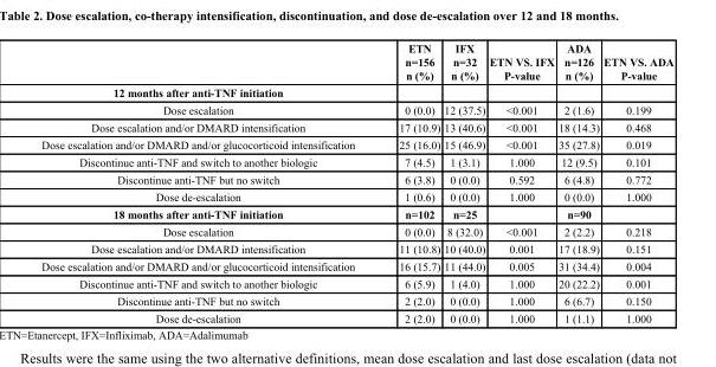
<table><thead><tr><td></td><td>ETN n=156 n (%)</td><td>IFX n=32 n (%)</td><td>ETN VS. IFX P-value</td><td>ADA n=126 n (%)</td><td>ETN VS. ADA P-value</td></tr></thead><tbody><tr><td colspan="6">12 months after anti-TNF initiation</td></tr><tr><td>Dose escalation</td><td>0 (0.0)</td><td>12 (37.5)</td><td>&lt;0.001</td><td>2 (1.6)</td><td>0.199</td></tr><tr><td>Dose escalation and/or DMARD intensification</td><td>17 (10.9)</td><td>13 (40.6)</td><td>&lt;0.001</td><td>18 (14.3)</td><td>0.468</td></tr><tr><td>Dose escalation and/or DMARD and/or glucocorticoid intensification</td><td>25 (16.0)</td><td>15 (46.9)</td><td>&lt;0.001</td><td>35 (27.8)</td><td>0.019</td></tr><tr><td>Discontinue anti-TNF and switch to another biologic</td><td>7 (4.5)</td><td>1 (3.1)</td><td>1.000</td><td>12 (9.5)</td><td>0.101</td></tr><tr><td>Discontinue anti-TNF but no switch</td><td>6 (3.8)</td><td>0 (0.0)</td><td>0.592</td><td>6 (4.8)</td><td>0.772</td></tr><tr><td>Dose de-escalation</td><td>1 (0.6)</td><td>0 (0.0)</td><td>1.000</td><td>0 (0.0)</td><td>1.000</td></tr><tr><td>18 months after anti-TNF initiation</td><td>n=102</td><td>n=25</td><td></td><td>n=90</td><td></td></tr><tr><td>Dose escalation</td><td>0 (0.0)</td><td>8 (32.0)</td><td>&lt;0.001</td><td>2 (2.2)</td><td>0.218</td></tr><tr><td>Dose escalation and/or DMARD intensification</td><td>11 (10.8)</td><td>10 (40.0)</td><td>0.001</td><td>17 (18.9)</td><td>0.151</td></tr><tr><td>Dose escalation and/or DMARD and/or glucocorticoid intensification</td><td>16 (15.7)</td><td>11 (44.0)</td><td>0.005</td><td>31 (34.4)</td><td>0.004</td></tr><tr><td>Discontinue anti-TNF and switch to another biologic</td><td>6 (5.9)</td><td>1 (4.0)</td><td>1.000</td><td>20 (22.2)</td><td>0.001</td></tr><tr><td>Discontinue anti-TNF but no switch</td><td>2 (2.0)</td><td>0 (0.0)</td><td>1.000</td><td>6 (6.7)</td><td>0.150</td></tr><tr><td>Dose de-escalation</td><td>2 (2.0)</td><td>0 (0.0)</td><td>1.000</td><td>1 (1.1)</td><td>1.000</td></tr></tbody></table>